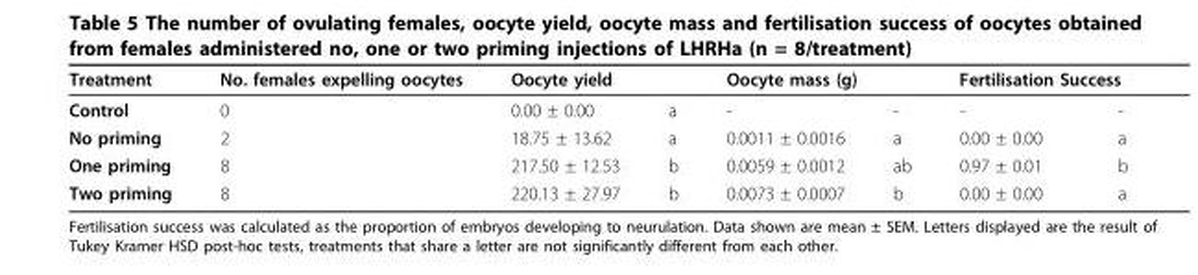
<table><thead><tr><td rowspan="2">Treatment Control</td><td rowspan="2">No. females expelling oocytes 0</td><td colspan="2">Oocyte yield</td><td colspan="2">Oocyte mass (g)</td><td colspan="2">Fertilisation Success</td></tr><tr><td>0.00 ± 0.00</td><td>a</td><td>-</td><td>-</td><td>-</td><td>-</td></tr></thead><tbody><tr><td>No priming</td><td>2</td><td>18.75 ± 13.62</td><td>a</td><td>0.0011 ± 0.0016</td><td>a</td><td>0.00 ± 0.00</td><td>a</td></tr><tr><td>One priming</td><td>8</td><td>217.50 ± 12.53</td><td>b</td><td>0.0059 ± 0.0012</td><td>ab</td><td>0.97 ± 0.01</td><td>b</td></tr><tr><td>Two priming</td><td>8</td><td>220.13 ± 27.97</td><td>b</td><td>0.0073 ± 0.0007</td><td>b</td><td>0.00 ± 0.00</td><td>a</td></tr></tbody></table>